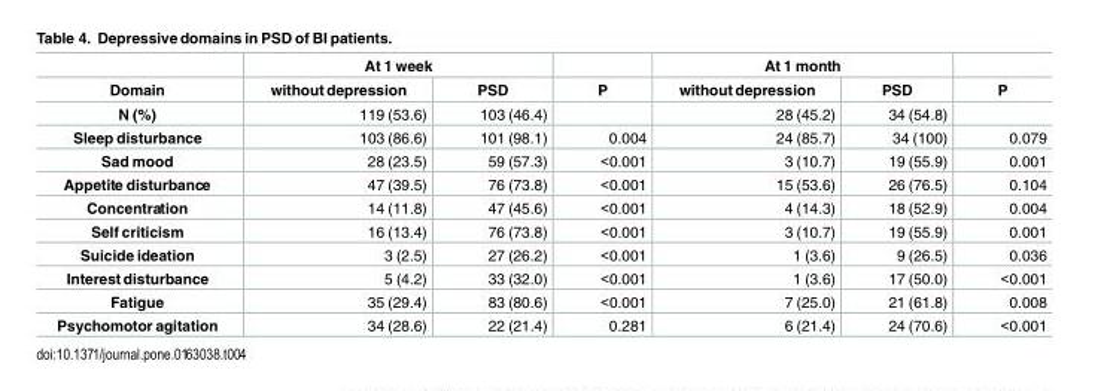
<table><thead><tr><td rowspan="2">Domain</td><td colspan="2">At 1 week</td><td rowspan="2">P</td><td colspan="2">At 1 month</td><td rowspan="2">P</td></tr><tr><td>without depression</td><td>PSD</td><td>without depression</td><td>PSD</td></tr></thead><tbody><tr><td>N (%)</td><td>119 (53.6)</td><td>103 (46.4)</td><td></td><td>28 (45.2)</td><td>34 (54.8)</td><td></td></tr><tr><td>Sleep disturbance</td><td>103 (86.6)</td><td>101 (98.1)</td><td>0.004</td><td>24 (85.7)</td><td>34 (100)</td><td>0.079</td></tr><tr><td>Sad mood</td><td>28 (23.5)</td><td>59 (57.3)</td><td>&lt;0.001</td><td>3 (10.7)</td><td>19 (55.9)</td><td>0.001</td></tr><tr><td>Appetite disturbance</td><td>47 (39.5)</td><td>76 (73.8)</td><td>&lt;0.001</td><td>15 (53.6)</td><td>26 (76.5)</td><td>0.104</td></tr><tr><td>Concentration</td><td>14 (11.8)</td><td>47 (45.6)</td><td>&lt;0.001</td><td>4 (14.3)</td><td>18 (52.9)</td><td>0.004</td></tr><tr><td>Self criticism</td><td>16 (13.4)</td><td>76 (73.8)</td><td>&lt;0.001</td><td>3 (10.7)</td><td>19 (55.9)</td><td>0.001</td></tr><tr><td>Suicide ideation</td><td>3 (2.5)</td><td>27 (26.2)</td><td>&lt;0.001</td><td>1 (3.6)</td><td>9 (26.5)</td><td>0.036</td></tr><tr><td>Interest disturbance</td><td>5 (4.2)</td><td>33 (32.0)</td><td>&lt;0.001</td><td>1 (3.6)</td><td>17 (50.0)</td><td>&lt;0.001</td></tr><tr><td>Fatigue</td><td>35 (29.4)</td><td>83 (80.6)</td><td>&lt;0.001</td><td>7 (25.0)</td><td>21 (61.8)</td><td>0.008</td></tr><tr><td>Psychomotor agitation</td><td>34 (28.6)</td><td>22 (21.4)</td><td>0.281</td><td>6 (21.4)</td><td>24 (70.6)</td><td>&lt;0.001</td></tr></tbody></table>